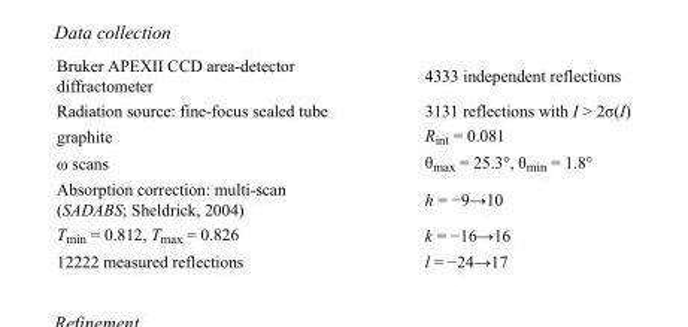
<table><tbody><tr><td>Bruker APEXII CCD area-detector diffractometer</td><td>4333 independent reflections</td></tr><tr><td>Radiation source: fine-focus sealed tube</td><td>3131 reflections with I &gt; 2σ(I)</td></tr><tr><td>graphite</td><td>R<sub>int</sub> = 0.081</td></tr><tr><td>ω scans</td><td>θ<sub>max</sub> = 25.3°, θ<sub>min</sub> = 1.8°</td></tr><tr><td>Absorption correction: multi-scan (SADABS; Sheldrick, 2004)</td><td>h = −9→10</td></tr><tr><td>T<sub>min</sub> = 0.812, T<sub>max</sub> = 0.826</td><td>k = −16→16</td></tr><tr><td>12222 measured reflections</td><td>l = −24→17</td></tr></tbody></table>